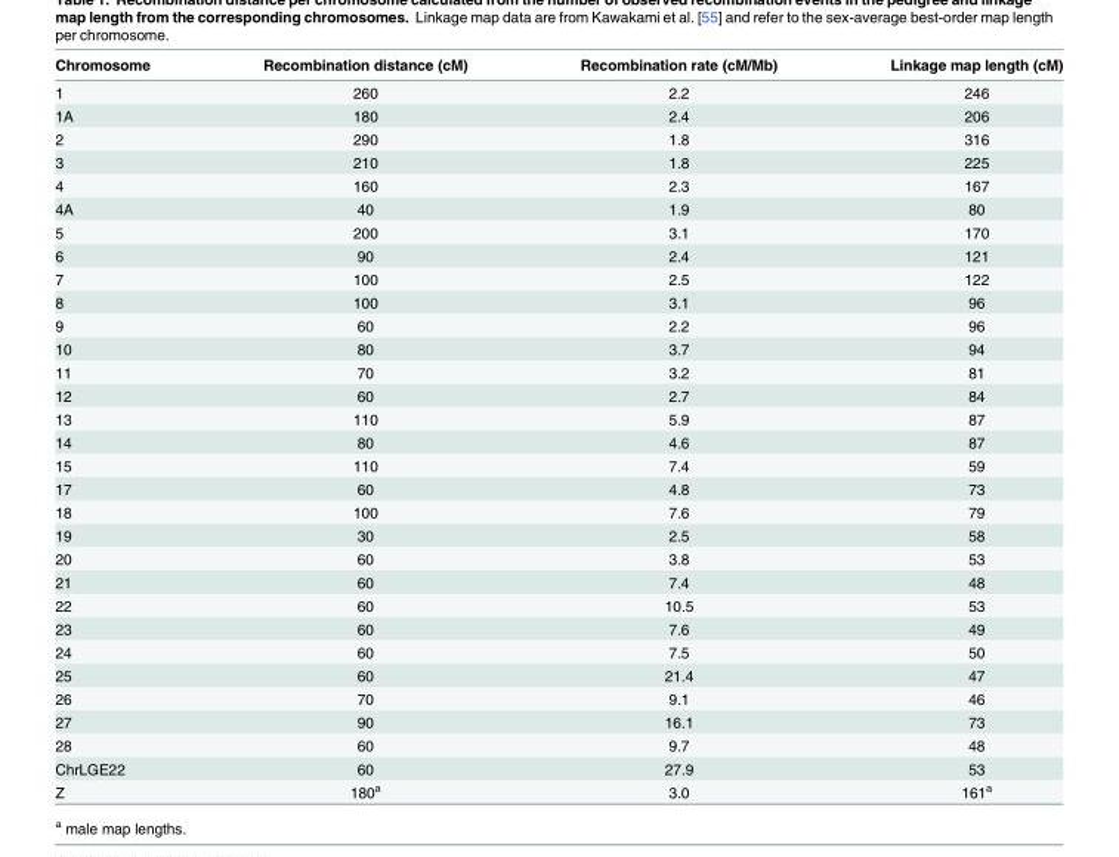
<table><thead><tr><td>Chromosome</td><td>Recombination distance (cM)</td><td>Recombination rate (cM/Mb)</td><td>Linkage map length (cM)</td></tr></thead><tbody><tr><td>1</td><td>260</td><td>2.2</td><td>246</td></tr><tr><td>1A</td><td>180</td><td>2.4</td><td>206</td></tr><tr><td>2</td><td>290</td><td>1.8</td><td>316</td></tr><tr><td>3</td><td>210</td><td>1.8</td><td>225</td></tr><tr><td>4</td><td>160</td><td>2.3</td><td>167</td></tr><tr><td>4A</td><td>40</td><td>1.9</td><td>80</td></tr><tr><td>5</td><td>200</td><td>3.1</td><td>170</td></tr><tr><td>6</td><td>90</td><td>2.4</td><td>121</td></tr><tr><td>7</td><td>100</td><td>2.5</td><td>122</td></tr><tr><td>8</td><td>100</td><td>3.1</td><td>96</td></tr><tr><td>9</td><td>60</td><td>2.2</td><td>96</td></tr><tr><td>10</td><td>80</td><td>3.7</td><td>94</td></tr><tr><td>11</td><td>70</td><td>3.2</td><td>81</td></tr><tr><td>12</td><td>60</td><td>2.7</td><td>84</td></tr><tr><td>13</td><td>110</td><td>5.9</td><td>87</td></tr><tr><td>14</td><td>80</td><td>4.6</td><td>87</td></tr><tr><td>15</td><td>110</td><td>7.4</td><td>59</td></tr><tr><td>17</td><td>60</td><td>4.8</td><td>73</td></tr><tr><td>18</td><td>100</td><td>7.6</td><td>79</td></tr><tr><td>19</td><td>30</td><td>2.5</td><td>58</td></tr><tr><td>20</td><td>60</td><td>3.8</td><td>53</td></tr><tr><td>21</td><td>60</td><td>7.4</td><td>48</td></tr><tr><td>22</td><td>60</td><td>10.5</td><td>53</td></tr><tr><td>23</td><td>60</td><td>7.6</td><td>49</td></tr><tr><td>24</td><td>60</td><td>7.5</td><td>50</td></tr><tr><td>25</td><td>60</td><td>21.4</td><td>47</td></tr><tr><td>26</td><td>70</td><td>9.1</td><td>46</td></tr><tr><td>27</td><td>90</td><td>16.1</td><td>73</td></tr><tr><td>28</td><td>60</td><td>9.7</td><td>48</td></tr><tr><td>ChrLGE22</td><td>60</td><td>27.9</td><td>53</td></tr><tr><td>Z</td><td>180<sup>a</sup></td><td>3.0</td><td>161<sup>a</sup></td></tr></tbody></table>